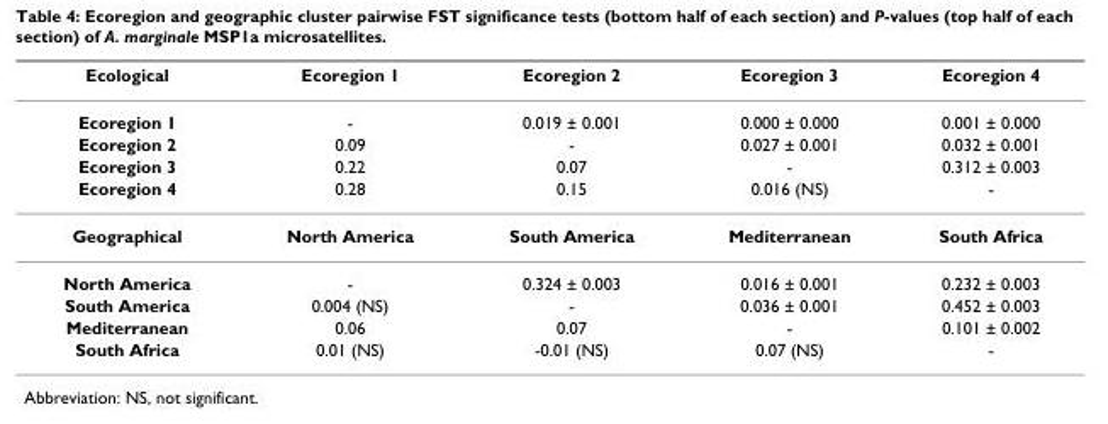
<table><thead><tr><td>Ecological</td><td>Ecoregion 1</td><td>Ecoregion 2</td><td>Ecoregion 3</td><td>Ecoregion 4</td></tr></thead><tbody><tr><td>Ecoregion 1</td><td>-</td><td>0.019 ± 0.001</td><td>0.000 ± 0.000</td><td>0.001 ± 0.000</td></tr><tr><td>Ecoregion 2</td><td>0.09</td><td>-</td><td>0.027 ± 0.001</td><td>0.032 ± 0.001</td></tr><tr><td>Ecoregion 3</td><td>0.22</td><td>0.07</td><td>-</td><td>0.312 ± 0.003</td></tr><tr><td>Ecoregion 4</td><td>0.28</td><td>0.15</td><td>0.016 (NS)</td><td>-</td></tr><tr><td>Geographical</td><td>North America</td><td>South America</td><td>Mediterranean</td><td>South Africa</td></tr><tr><td>North America</td><td>-</td><td>0.324 ± 0.003</td><td>0.016 ± 0.001</td><td>0.232 ± 0.003</td></tr><tr><td>South America</td><td>0.004 (NS)</td><td>-</td><td>0.036 ± 0.001</td><td>0.452 ± 0.003</td></tr><tr><td>Mediterranean</td><td>0.06</td><td>0.07</td><td>-</td><td>0.101 ± 0.002</td></tr><tr><td>South Africa</td><td>0.01 (NS)</td><td>-0.01 (NS)</td><td>0.07 (NS)</td><td>-</td></tr></tbody></table>